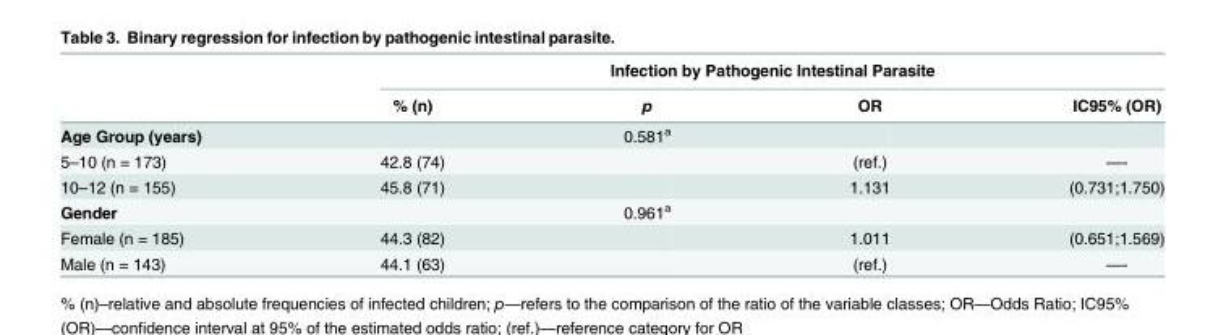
<table><thead><tr><td rowspan="2"></td><td colspan="4">Infection by Pathogenic Intestinal Parasite</td></tr><tr><td>% (n)</td><td>p</td><td>OR</td><td>IC95% (OR)</td></tr></thead><tbody><tr><td>Age Group (years)</td><td></td><td>0.581<sup>a</sup></td><td></td><td></td></tr><tr><td>5–10 (n = 173)</td><td>42.8 (74)</td><td></td><td>(ref.)</td><td>—-</td></tr><tr><td>10–12 (n = 155)</td><td>45.8 (71)</td><td></td><td>1.131</td><td>(0.731;1.750)</td></tr><tr><td>Gender</td><td></td><td>0.961<sup>a</sup></td><td></td><td></td></tr><tr><td>Female (n = 185)</td><td>44.3 (82)</td><td></td><td>1.011</td><td>(0.651;1.569)</td></tr><tr><td>Male (n = 143)</td><td>44.1 (63)</td><td></td><td>(ref.)</td><td>—-</td></tr></tbody></table>